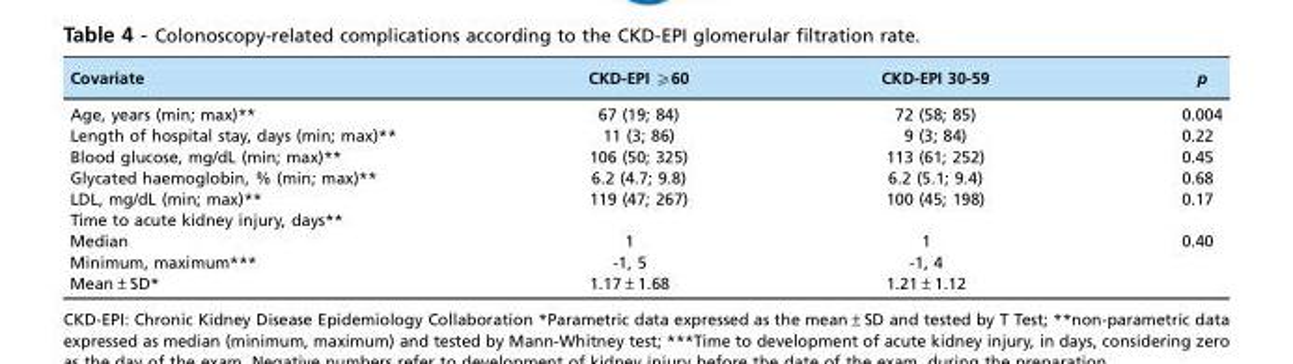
<table><thead><tr><td>Covariate</td><td>CKD-EPI ≥60</td><td>CKD-EPI 30-59</td><td>p</td></tr></thead><tbody><tr><td>Age, years (min; max)**</td><td>67 (19; 84)</td><td>72 (58; 85)</td><td>0.004</td></tr><tr><td>Length of hospital stay, days (min; max)**</td><td>11 (3; 86)</td><td>9 (3; 84)</td><td>0.22</td></tr><tr><td>Blood glucose, mg/dL (min; max)**</td><td>106 (50; 325)</td><td>113 (61; 252)</td><td>0.45</td></tr><tr><td>Glycated haemoglobin, % (min; max)**</td><td>6.2 (4.7; 9.8)</td><td>6.2 (5.1; 9.4)</td><td>0.68</td></tr><tr><td>LDL, mg/dL (min; max)**</td><td>119 (47; 267)</td><td>100 (45; 198)</td><td>0.17</td></tr><tr><td>Time to acute kidney injury, days** Median Minimum, maximum*** Mean±SD*</td><td>1 -1, 5 1.17±1.68</td><td>1 -1, 4 1.21±1.12</td><td>0.40</td></tr></tbody></table>